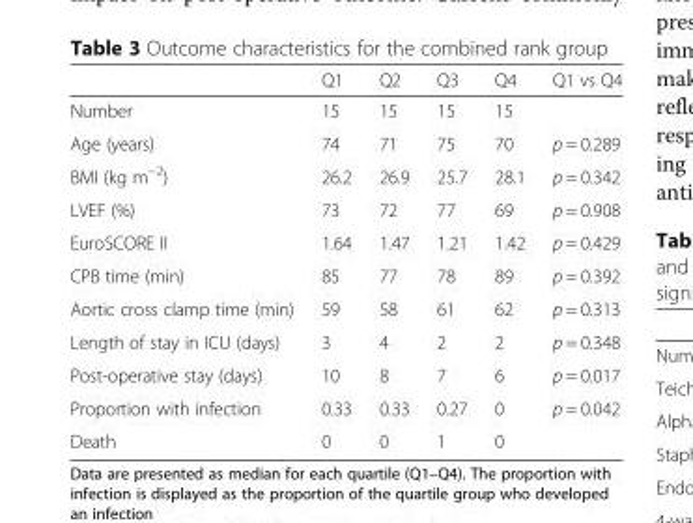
<table><thead><tr><td></td><td>Q1</td><td>Q2</td><td>Q3</td><td>Q4</td><td>Q1 vs Q4</td></tr></thead><tbody><tr><td>Number</td><td>15</td><td>15</td><td>15</td><td>15</td><td></td></tr><tr><td>Age (years)</td><td>74</td><td>71</td><td>75</td><td>70</td><td>p = 0.289</td></tr><tr><td>BMI (kg m<sup>−2</sup>)</td><td>26.2</td><td>26.9</td><td>25.7</td><td>28.1</td><td>p = 0.342</td></tr><tr><td>LVEF (%)</td><td>73</td><td>72</td><td>77</td><td>69</td><td>p = 0.908</td></tr><tr><td>EuroSCORE II</td><td>1.64</td><td>1.47</td><td>1.21</td><td>1.42</td><td>p = 0.429</td></tr><tr><td>CPB time (min)</td><td>85</td><td>77</td><td>78</td><td>89</td><td>p = 0.392</td></tr><tr><td>Aortic cross clamp time (min)</td><td>59</td><td>58</td><td>61</td><td>62</td><td>p = 0.313</td></tr><tr><td>Length of stay in ICU (days)</td><td>3</td><td>4</td><td>2</td><td>2</td><td>p = 0.348</td></tr><tr><td>Post-operative stay (days)</td><td>10</td><td>8</td><td>7</td><td>6</td><td>p = 0.017</td></tr><tr><td>Proportion with infection</td><td>0.33</td><td>0.33</td><td>0.27</td><td>0</td><td>p = 0.042</td></tr><tr><td>Death</td><td>0</td><td>0</td><td>1</td><td>0</td><td></td></tr></tbody></table>